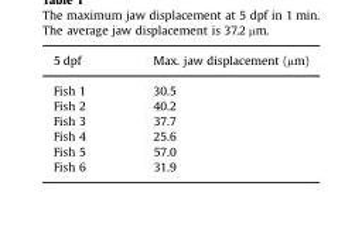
<table><thead><tr><td>5 dpf</td><td>Max. jaw displacement (µm)</td></tr></thead><tbody><tr><td>Fish 1</td><td>30.5</td></tr><tr><td>Fish 2</td><td>40.2</td></tr><tr><td>Fish 3</td><td>37.7</td></tr><tr><td>Fish 4</td><td>25.6</td></tr><tr><td>Fish 5</td><td>57.0</td></tr><tr><td>Fish 6</td><td>31.9</td></tr></tbody></table>